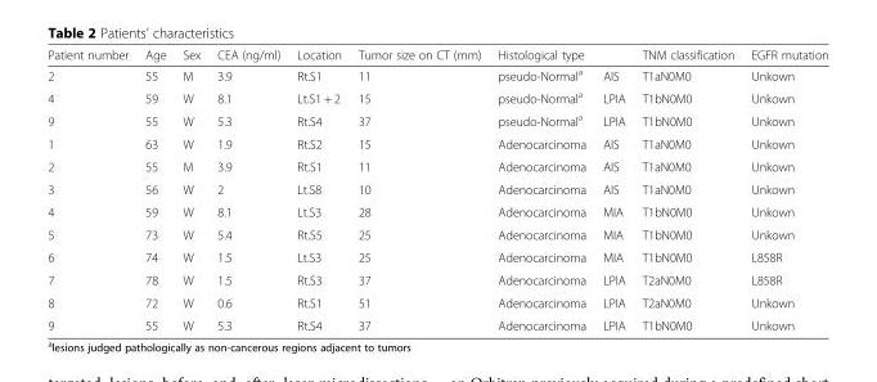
<table><thead><tr><td rowspan="2">Patient number 2</td><td rowspan="2">Age 55</td><td rowspan="2">Sex M</td><td rowspan="2">CEA (ng/ml) 3.9</td><td rowspan="2">Location Rt.S1</td><td rowspan="2">Tumor size on CT (mm) 11</td><td colspan="2">Histological type</td><td rowspan="2">TNM classification T1aN0M0</td><td rowspan="2">EGFR mutation Unkown</td></tr><tr><td>pseudo-Normal<sup>a</sup></td><td>AIS</td></tr></thead><tbody><tr><td>4</td><td>59</td><td>W</td><td>8.1</td><td>Lt.S1 + 2</td><td>15</td><td>pseudo-Normal<sup>a</sup></td><td>LPIA</td><td>T1bN0M0</td><td>Unkown</td></tr><tr><td>9</td><td>55</td><td>W</td><td>5.3</td><td>Rt.S4</td><td>37</td><td>pseudo-Normal<sup>a</sup></td><td>LPIA</td><td>T1bN0M0</td><td>Unkown</td></tr><tr><td>1</td><td>63</td><td>W</td><td>1.9</td><td>Rt.S2</td><td>15</td><td>Adenocarcinoma</td><td>AIS</td><td>T1aN0M0</td><td>Unkown</td></tr><tr><td>2</td><td>55</td><td>M</td><td>3.9</td><td>Rt.S1</td><td>11</td><td>Adenocarcinoma</td><td>AIS</td><td>T1aN0M0</td><td>Unkown</td></tr><tr><td>3</td><td>56</td><td>W</td><td>2</td><td>Lt.S8</td><td>10</td><td>Adenocarcinoma</td><td>AIS</td><td>T1aN0M0</td><td>Unkown</td></tr><tr><td>4</td><td>59</td><td>W</td><td>8.1</td><td>Lt.S3</td><td>28</td><td>Adenocarcinoma</td><td>MIA</td><td>T1bN0M0</td><td>Unkown</td></tr><tr><td>5</td><td>73</td><td>W</td><td>5.4</td><td>Rt.S5</td><td>25</td><td>Adenocarcinoma</td><td>MIA</td><td>T1bN0M0</td><td>Unkown</td></tr><tr><td>6</td><td>74</td><td>W</td><td>1.5</td><td>Lt.S3</td><td>25</td><td>Adenocarcinoma</td><td>MIA</td><td>T1bN0M0</td><td>L858R</td></tr><tr><td>7</td><td>78</td><td>W</td><td>1.5</td><td>Rt.S3</td><td>37</td><td>Adenocarcinoma</td><td>LPIA</td><td>T2aN0M0</td><td>L858R</td></tr><tr><td>8</td><td>72</td><td>W</td><td>0.6</td><td>Rt.S1</td><td>51</td><td>Adenocarcinoma</td><td>LPIA</td><td>T2aN0M0</td><td>Unkown</td></tr><tr><td>9</td><td>55</td><td>W</td><td>5.3</td><td>Rt.S4</td><td>37</td><td>Adenocarcinoma</td><td>LPIA</td><td>T1bN0M0</td><td>Unkown</td></tr></tbody></table>